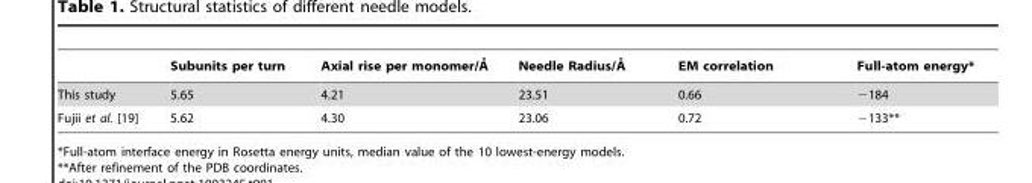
<table><thead><tr><td></td><td>Subunits per turn</td><td>Axial rise per monomer/A˚</td><td>Needle Radius/A˚</td><td>EM correlation</td><td>Full-atom energy*</td></tr></thead><tbody><tr><td>This study</td><td>5.65</td><td>4.21</td><td>23.51</td><td>0.66</td><td>−184</td></tr><tr><td>Fujii et al. [19]</td><td>5.62</td><td>4.30</td><td>23.06</td><td>0.72</td><td>−133**</td></tr></tbody></table>